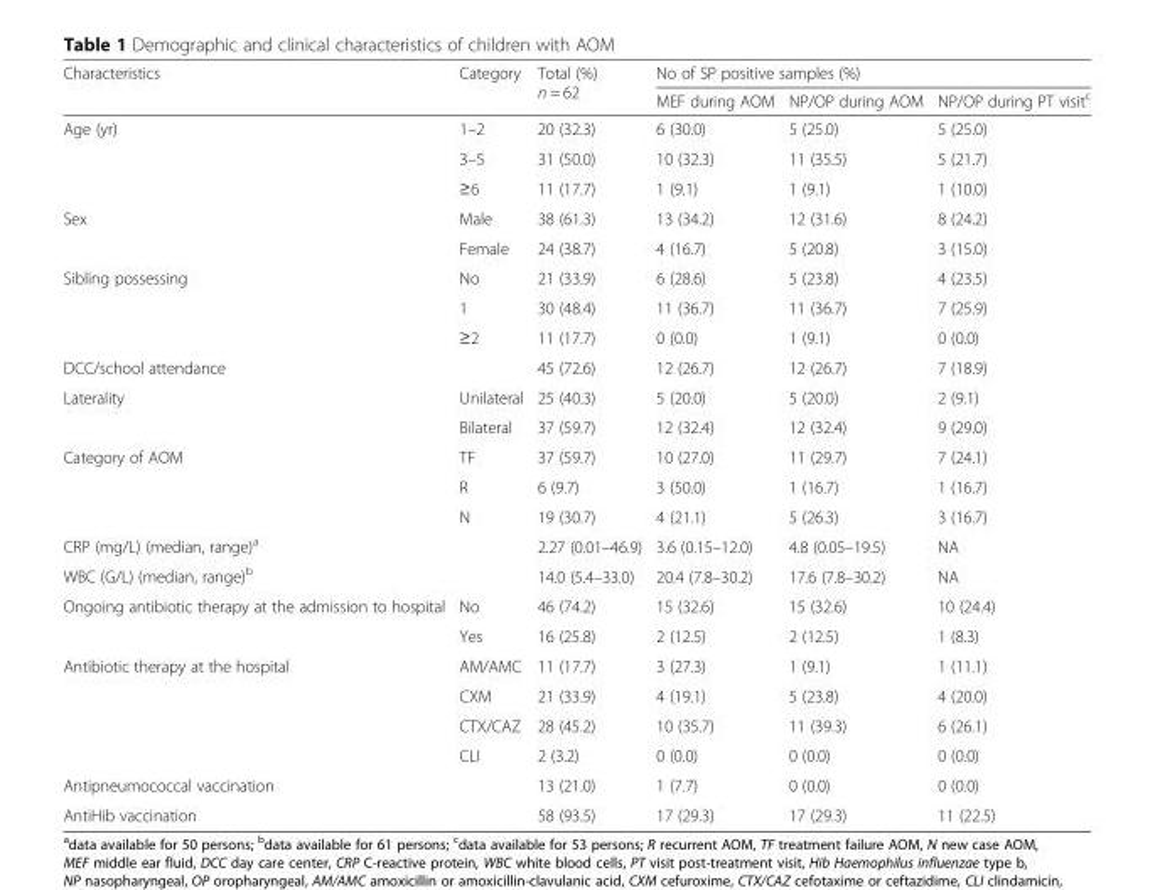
<table><thead><tr><td rowspan="2">Characteristics</td><td rowspan="2">Category</td><td rowspan="2">Total (%) n = 62</td><td colspan="3">No of SP positive samples (%)</td></tr><tr><td>MEF during AOM</td><td>NP/OP during AOM</td><td>NP/OP during PT visit<sup>c</sup></td></tr></thead><tbody><tr><td rowspan="3">Age (yr)</td><td>1–2</td><td>20 (32.3)</td><td>6 (30.0)</td><td>5 (25.0)</td><td>5 (25.0)</td></tr><tr><td>3–5</td><td>31 (50.0)</td><td>10 (32.3)</td><td>11 (35.5)</td><td>5 (21.7)</td></tr><tr><td>≥6</td><td>11 (17.7)</td><td>1 (9.1)</td><td>1 (9.1)</td><td>1 (10.0)</td></tr><tr><td rowspan="2">Sex</td><td>Male</td><td>38 (61.3)</td><td>13 (34.2)</td><td>12 (31.6)</td><td>8 (24.2)</td></tr><tr><td>Female</td><td>24 (38.7)</td><td>4 (16.7)</td><td>5 (20.8)</td><td>3 (15.0)</td></tr><tr><td rowspan="3">Sibling possessing</td><td>No</td><td>21 (33.9)</td><td>6 (28.6)</td><td>5 (23.8)</td><td>4 (23.5)</td></tr><tr><td>1</td><td>30 (48.4)</td><td>11 (36.7)</td><td>11 (36.7)</td><td>7 (25.9)</td></tr><tr><td>≥2</td><td>11 (17.7)</td><td>0 (0.0)</td><td>1 (9.1)</td><td>0 (0.0)</td></tr><tr><td>DCC/school attendance</td><td></td><td>45 (72.6)</td><td>12 (26.7)</td><td>12 (26.7)</td><td>7 (18.9)</td></tr><tr><td rowspan="2">Laterality</td><td>Unilateral</td><td>25 (40.3)</td><td>5 (20.0)</td><td>5 (20.0)</td><td>2 (9.1)</td></tr><tr><td>Bilateral</td><td>37 (59.7)</td><td>12 (32.4)</td><td>12 (32.4)</td><td>9 (29.0)</td></tr><tr><td rowspan="3">Category of AOM</td><td>TF</td><td>37 (59.7)</td><td>10 (27.0)</td><td>11 (29.7)</td><td>7 (24.1)</td></tr><tr><td>R</td><td>6 (9.7)</td><td>3 (50.0)</td><td>1 (16.7)</td><td>1 (16.7)</td></tr><tr><td>N</td><td>19 (30.7)</td><td>4 (21.1)</td><td>5 (26.3)</td><td>3 (16.7)</td></tr><tr><td>CRP (mg/L) (median, range)<sup>a</sup></td><td></td><td>2.27 (0.01–46.9)</td><td>3.6 (0.15–12.0)</td><td>4.8 (0.05–19.5)</td><td>NA</td></tr><tr><td>WBC (G/L) (median, range)<sup>b</sup></td><td></td><td>14.0 (5.4–33.0)</td><td>20.4 (7.8–30.2)</td><td>17.6 (7.8–30.2)</td><td>NA</td></tr><tr><td rowspan="2">Ongoing antibiotic therapy at the admission to hospital</td><td>No</td><td>46 (74.2)</td><td>15 (32.6)</td><td>15 (32.6)</td><td>10 (24.4)</td></tr><tr><td>Yes</td><td>16 (25.8)</td><td>2 (12.5)</td><td>2 (12.5)</td><td>1 (8.3)</td></tr><tr><td rowspan="4">Antibiotic therapy at the hospital</td><td>AM/AMC</td><td>11 (17.7)</td><td>3 (27.3)</td><td>1 (9.1)</td><td>1 (11.1)</td></tr><tr><td>CXM</td><td>21 (33.9)</td><td>4 (19.1)</td><td>5 (23.8)</td><td>4 (20.0)</td></tr><tr><td>CTX/CAZ</td><td>28 (45.2)</td><td>10 (35.7)</td><td>11 (39.3)</td><td>6 (26.1)</td></tr><tr><td>CLI</td><td>2 (3.2)</td><td>0 (0.0)</td><td>0 (0.0)</td><td>0 (0.0)</td></tr><tr><td>Antipneumococcal vaccination</td><td></td><td>13 (21.0)</td><td>1 (7.7)</td><td>0 (0.0)</td><td>0 (0.0)</td></tr><tr><td>AntiHib vaccination</td><td></td><td>58 (93.5)</td><td>17 (29.3)</td><td>17 (29.3)</td><td>11 (22.5)</td></tr></tbody></table>